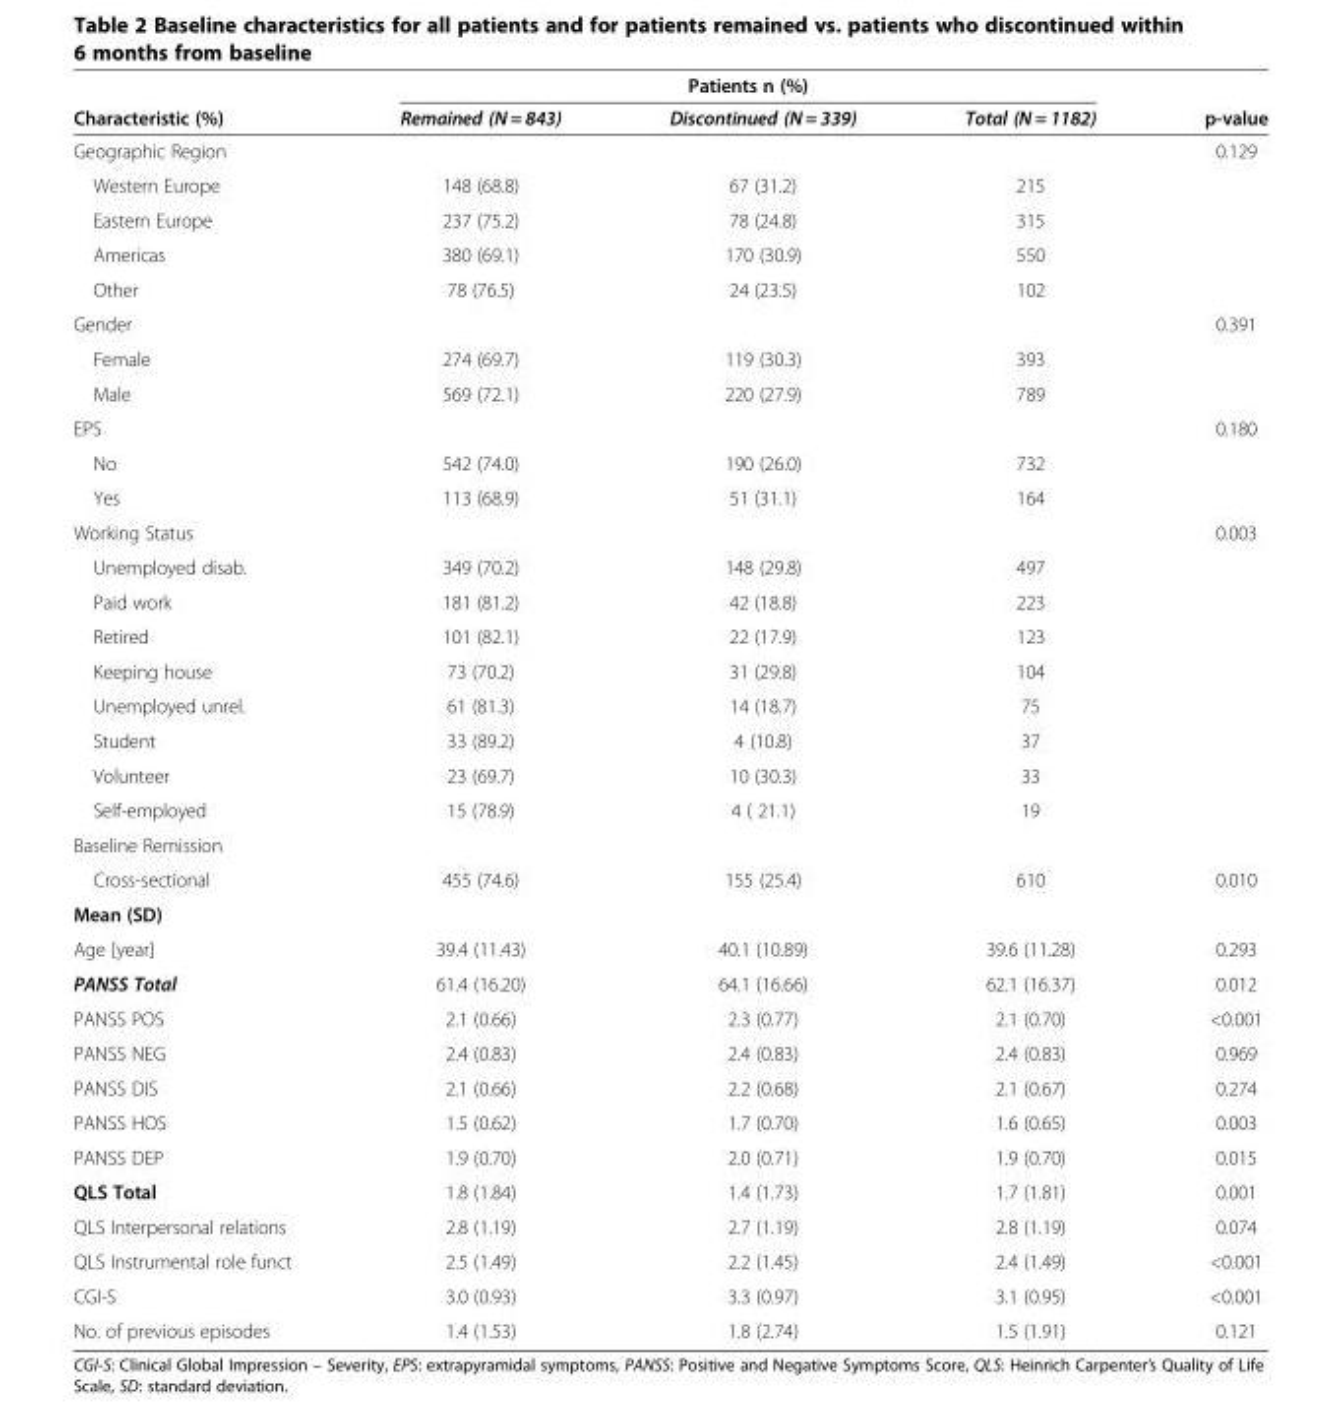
<table><thead><tr><td rowspan="2">Characteristic (%)</td><td colspan="3">Patients n (%)</td><td rowspan="2">p-value</td></tr><tr><td>Remained (N = 843)</td><td>Discontinued (N = 339)</td><td>Total (N = 1182)</td></tr></thead><tbody><tr><td>Geographic Region</td><td></td><td></td><td></td><td>0.129</td></tr><tr><td>Western Europe</td><td>148 (68.8)</td><td>67 (31.2)</td><td>215</td><td></td></tr><tr><td>Eastern Europe</td><td>237 (75.2)</td><td>78 (24.8)</td><td>315</td><td></td></tr><tr><td>Americas</td><td>380 (69.1)</td><td>170 (30.9)</td><td>550</td><td></td></tr><tr><td>Other</td><td>78 (76.5)</td><td>24 (23.5)</td><td>102</td><td></td></tr><tr><td>Gender</td><td></td><td></td><td></td><td>0.391</td></tr><tr><td>Female</td><td>274 (69.7)</td><td>119 (30.3)</td><td>393</td><td></td></tr><tr><td>Male</td><td>569 (72.1)</td><td>220 (27.9)</td><td>789</td><td></td></tr><tr><td>EPS</td><td></td><td></td><td></td><td>0.180</td></tr><tr><td>No</td><td>542 (74.0)</td><td>190 (26.0)</td><td>732</td><td></td></tr><tr><td>Yes</td><td>113 (68.9)</td><td>51 (31.1)</td><td>164</td><td></td></tr><tr><td>Working Status</td><td></td><td></td><td></td><td>0.003</td></tr><tr><td>Unemployed disab.</td><td>349 (70.2)</td><td>148 (29.8)</td><td>497</td><td></td></tr><tr><td>Paid work</td><td>181 (81.2)</td><td>42 (18.8)</td><td>223</td><td></td></tr><tr><td>Retired</td><td>101 (82.1)</td><td>22 (17.9)</td><td>123</td><td></td></tr><tr><td>Keeping house</td><td>73 (70.2)</td><td>31 (29.8)</td><td>104</td><td></td></tr><tr><td>Unemployed unrel.</td><td>61 (81.3)</td><td>14 (18.7)</td><td>75</td><td></td></tr><tr><td>Student</td><td>33 (89.2)</td><td>4 (10.8)</td><td>37</td><td></td></tr><tr><td>Volunteer</td><td>23 (69.7)</td><td>10 (30.3)</td><td>33</td><td></td></tr><tr><td>Self-employed</td><td>15 (78.9)</td><td>4 ( 21.1)</td><td>19</td><td></td></tr><tr><td colspan="5">Baseline Remission</td></tr><tr><td>Cross-sectional</td><td>455 (74.6)</td><td>155 (25.4)</td><td>610</td><td>0.010</td></tr><tr><td colspan="5">Mean (SD)</td></tr><tr><td>Age [year]</td><td>39.4 (11.43)</td><td>40.1 (10.89)</td><td>39.6 (11.28)</td><td>0.293</td></tr><tr><td>PANSS Total</td><td>61.4 (16.20)</td><td>64.1 (16.66)</td><td>62.1 (16.37)</td><td>0.012</td></tr><tr><td>PANSS POS</td><td>2.1 (0.66)</td><td>2.3 (0.77)</td><td>2.1 (0.70)</td><td>&lt;0.001</td></tr><tr><td>PANSS NEG</td><td>2.4 (0.83)</td><td>2.4 (0.83)</td><td>2.4 (0.83)</td><td>0.969</td></tr><tr><td>PANSS DIS</td><td>2.1 (0.66)</td><td>2.2 (0.68)</td><td>2.1 (0.67)</td><td>0.274</td></tr><tr><td>PANSS HOS</td><td>1.5 (0.62)</td><td>1.7 (0.70)</td><td>1.6 (0.65)</td><td>0.003</td></tr><tr><td>PANSS DEP</td><td>1.9 (0.70)</td><td>2.0 (0.71)</td><td>1.9 (0.70)</td><td>0.015</td></tr><tr><td>QLS Total</td><td>1.8 (1.84)</td><td>1.4 (1.73)</td><td>1.7 (1.81)</td><td>0.001</td></tr><tr><td>QLS Interpersonal relations</td><td>2.8 (1.19)</td><td>2.7 (1.19)</td><td>2.8 (1.19)</td><td>0.074</td></tr><tr><td>QLS Instrumental role funct</td><td>2.5 (1.49)</td><td>2.2 (1.45)</td><td>2.4 (1.49)</td><td>&lt;0.001</td></tr><tr><td>CGI-S</td><td>3.0 (0.93)</td><td>3.3 (0.97)</td><td>3.1 (0.95)</td><td>&lt;0.001</td></tr><tr><td>No. of previous episodes</td><td>1.4 (1.53)</td><td>1.8 (2.74)</td><td>1.5 (1.91)</td><td>0.121</td></tr></tbody></table>